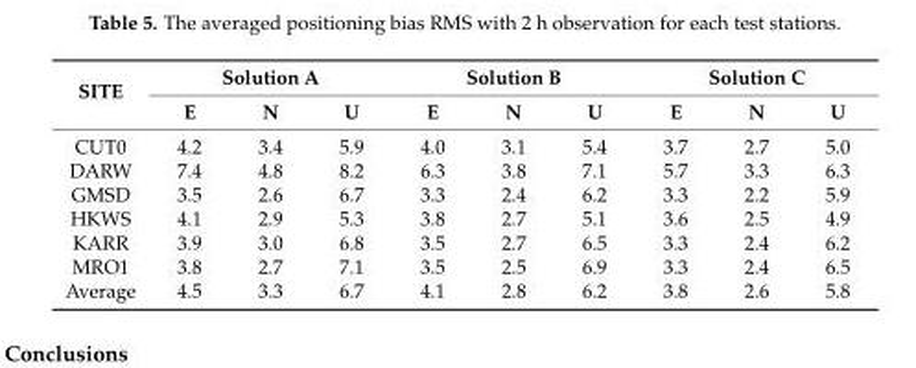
<table><thead><tr><td rowspan="2">SITE</td><td colspan="3">Solution A</td><td colspan="3">Solution B</td><td colspan="3">Solution C</td></tr><tr><td>E</td><td>N</td><td>U</td><td>E</td><td>N</td><td>U</td><td>E</td><td>N</td><td>U</td></tr></thead><tbody><tr><td>CUT0</td><td>4.2</td><td>3.4</td><td>5.9</td><td>4.0</td><td>3.1</td><td>5.4</td><td>3.7</td><td>2.7</td><td>5.0</td></tr><tr><td>DARW</td><td>7.4</td><td>4.8</td><td>8.2</td><td>6.3</td><td>3.8</td><td>7.1</td><td>5.7</td><td>3.3</td><td>6.3</td></tr><tr><td>GMSD</td><td>3.5</td><td>2.6</td><td>6.7</td><td>3.3</td><td>2.4</td><td>6.2</td><td>3.3</td><td>2.2</td><td>5.9</td></tr><tr><td>HKWS</td><td>4.1</td><td>2.9</td><td>5.3</td><td>3.8</td><td>2.7</td><td>5.1</td><td>3.6</td><td>2.5</td><td>4.9</td></tr><tr><td>KARR</td><td>3.9</td><td>3.0</td><td>6.8</td><td>3.5</td><td>2.7</td><td>6.5</td><td>3.3</td><td>2.4</td><td>6.2</td></tr><tr><td>MRO1</td><td>3.8</td><td>2.7</td><td>7.1</td><td>3.5</td><td>2.5</td><td>6.9</td><td>3.3</td><td>2.4</td><td>6.5</td></tr><tr><td>Average</td><td>4.5</td><td>3.3</td><td>6.7</td><td>4.1</td><td>2.8</td><td>6.2</td><td>3.8</td><td>2.6</td><td>5.8</td></tr></tbody></table>